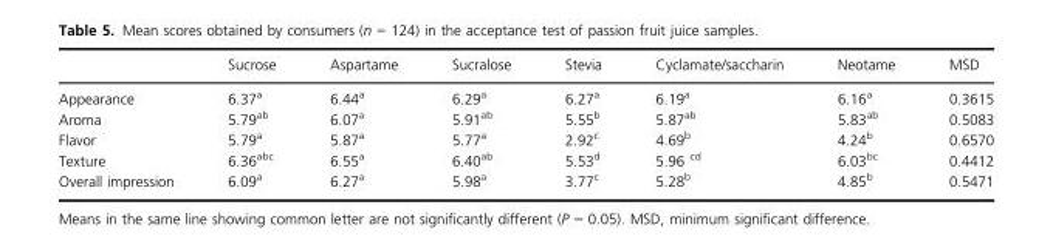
<table><thead><tr><td></td><td>Sucrose</td><td>Aspartame</td><td>Sucralose</td><td>Stevia</td><td>Cyclamate/saccharin</td><td>Neotame</td><td>MSD</td></tr></thead><tbody><tr><td>Appearance</td><td>6.37<sup>a</sup></td><td>6.44<sup>a</sup></td><td>6.29<sup>a</sup></td><td>6.27<sup>a</sup></td><td>6.19<sup>a</sup></td><td>6.16<sup>a</sup></td><td>0.3615</td></tr><tr><td>Aroma</td><td>5.79<sup>ab</sup></td><td>6.07<sup>a</sup></td><td>5.91<sup>ab</sup></td><td>5.55<sup>b</sup></td><td>5.87<sup>ab</sup></td><td>5.83<sup>ab</sup></td><td>0.5083</td></tr><tr><td>Flavor</td><td>5.79<sup>a</sup></td><td>5.87<sup>a</sup></td><td>5.77<sup>a</sup></td><td>2.92<sup>c</sup></td><td>4.69<sup>b</sup></td><td>4.24<sup>b</sup></td><td>0.6570</td></tr><tr><td>Texture</td><td>6.36<sup>abc</sup></td><td>6.55<sup>a</sup></td><td>6.40<sup>ab</sup></td><td>5.53<sup>d</sup></td><td>5.96 <sup>cd</sup></td><td>6.03<sup>bc</sup></td><td>0.4412</td></tr><tr><td>Overall impression</td><td>6.09<sup>a</sup></td><td>6.27<sup>a</sup></td><td>5.98<sup>a</sup></td><td>3.77<sup>c</sup></td><td>5.28<sup>b</sup></td><td>4.85<sup>b</sup></td><td>0.5471</td></tr></tbody></table>